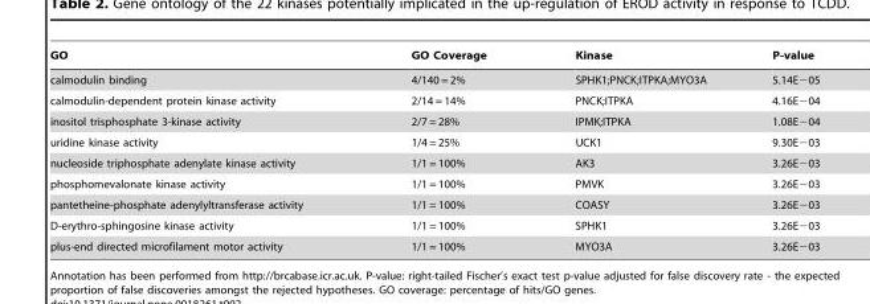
<table><thead><tr><td>GO</td><td>GO Coverage</td><td>Kinase</td><td>P-value</td></tr></thead><tbody><tr><td>calmodulin binding</td><td>4/140 = 2%</td><td>SPHK1;PNCK;ITPKA;MYO3A</td><td>5.14E−05</td></tr><tr><td>calmodulin-dependent protein kinase activity</td><td>2/14 = 14%</td><td>PNCK;ITPKA</td><td>4.16E−04</td></tr><tr><td>inositol trisphosphate 3-kinase activity</td><td>2/7 = 28%</td><td>IPMK;ITPKA</td><td>1.08E−04</td></tr><tr><td>uridine kinase activity</td><td>1/4 = 25%</td><td>UCK1</td><td>9.30E−03</td></tr><tr><td>nucleoside triphosphate adenylate kinase activity</td><td>1/1 = 100%</td><td>AK3</td><td>3.26E−03</td></tr><tr><td>phosphomevalonate kinase activity</td><td>1/1 = 100%</td><td>PMVK</td><td>3.26E−03</td></tr><tr><td>pantetheine-phosphate adenylyltransferase activity</td><td>1/1 = 100%</td><td>COASY</td><td>3.26E−03</td></tr><tr><td>D-erythro-sphingosine kinase activity</td><td>1/1 = 100%</td><td>SPHK1</td><td>3.26E−03</td></tr><tr><td>plus-end directed microfilament motor activity</td><td>1/1 = 100%</td><td>MYO3A</td><td>3.26E−03</td></tr></tbody></table>